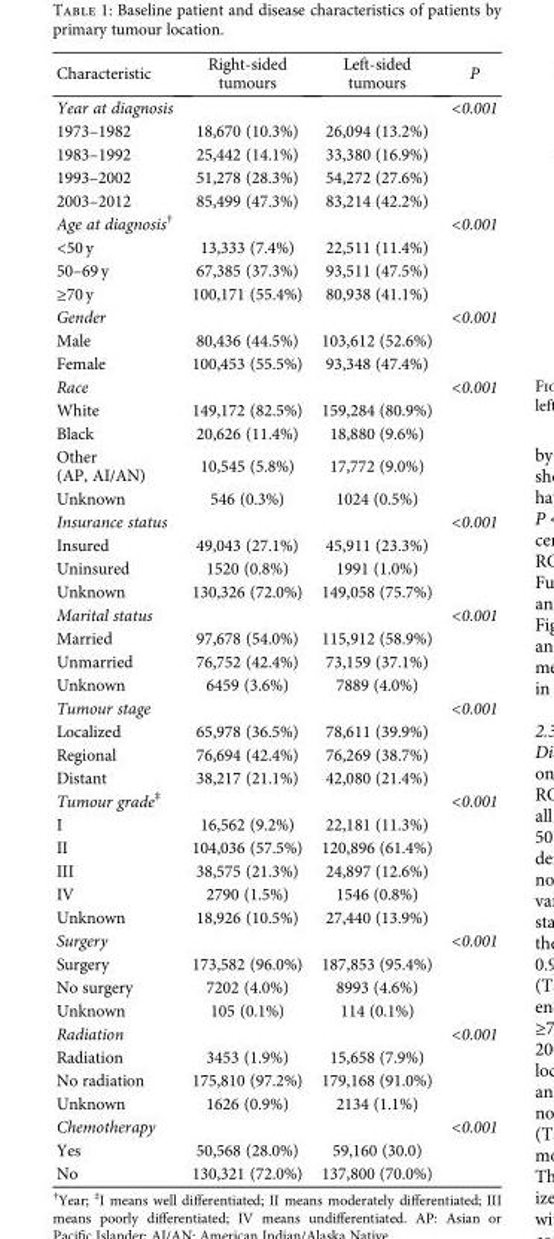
<table><thead><tr><td>Characteristic</td><td>Right-sided tumours</td><td>Left-sided tumours</td><td>P</td></tr></thead><tbody><tr><td>Year at diagnosis</td><td></td><td></td><td>&lt;0.001</td></tr><tr><td>1973–1982</td><td>18,670 (10.3%)</td><td>26,094 (13.2%)</td><td></td></tr><tr><td>1983–1992</td><td>25,442 (14.1%)</td><td>33,380 (16.9%)</td><td></td></tr><tr><td>1993–2002</td><td>51,278 (28.3%)</td><td>54,272 (27.6%)</td><td></td></tr><tr><td>2003–2012</td><td>85,499 (47.3%)</td><td>83,214 (42.2%)</td><td></td></tr><tr><td>Age at diagnosis<sup>†</sup></td><td></td><td></td><td>&lt;0.001</td></tr><tr><td>&lt;50 y</td><td>13,333 (7.4%)</td><td>22,511 (11.4%)</td><td></td></tr><tr><td>50–69 y</td><td>67,385 (37.3%)</td><td>93,511 (47.5%)</td><td></td></tr><tr><td>≥70 y</td><td>100,171 (55.4%)</td><td>80,938 (41.1%)</td><td></td></tr><tr><td>Gender</td><td></td><td></td><td>&lt;0.001</td></tr><tr><td>Male</td><td>80,436 (44.5%)</td><td>103,612 (52.6%)</td><td></td></tr><tr><td>Female</td><td>100,453 (55.5%)</td><td>93,348 (47.4%)</td><td></td></tr><tr><td>Race</td><td></td><td></td><td>&lt;0.001</td></tr><tr><td>White</td><td>149,172 (82.5%)</td><td>159,284 (80.9%)</td><td></td></tr><tr><td>Black</td><td>20,626 (11.4%)</td><td>18,880 (9.6%)</td><td></td></tr><tr><td>Other (AP, AI/AN)</td><td>10,545 (5.8%)</td><td>17,772 (9.0%)</td><td></td></tr><tr><td>Unknown</td><td>546 (0.3%)</td><td>1024 (0.5%)</td><td></td></tr><tr><td>Insurance status</td><td></td><td></td><td>&lt;0.001</td></tr><tr><td>Insured</td><td>49,043 (27.1%)</td><td>45,911 (23.3%)</td><td></td></tr><tr><td>Uninsured</td><td>1520 (0.8%)</td><td>1991 (1.0%)</td><td></td></tr><tr><td>Unknown</td><td>130,326 (72.0%)</td><td>149,058 (75.7%)</td><td></td></tr><tr><td>Marital status</td><td></td><td></td><td>&lt;0.001</td></tr><tr><td>Married</td><td>97,678 (54.0%)</td><td>115,912 (58.9%)</td><td></td></tr><tr><td>Unmarried</td><td>76,752 (42.4%)</td><td>73,159 (37.1%)</td><td></td></tr><tr><td>Unknown</td><td>6459 (3.6%)</td><td>7889 (4.0%)</td><td></td></tr><tr><td>Tumour stage</td><td></td><td></td><td>&lt;0.001</td></tr><tr><td>Localized</td><td>65,978 (36.5%)</td><td>78,611 (39.9%)</td><td></td></tr><tr><td>Regional</td><td>76,694 (42.4%)</td><td>76,269 (38.7%)</td><td></td></tr><tr><td>Distant</td><td>38,217 (21.1%)</td><td>42,080 (21.4%)</td><td></td></tr><tr><td>Tumour grade<sup>‡</sup></td><td></td><td></td><td>&lt;0.001</td></tr><tr><td>I</td><td>16,562 (9.2%)</td><td>22,181 (11.3%)</td><td></td></tr><tr><td>II</td><td>104,036 (57.5%)</td><td>120,896 (61.4%)</td><td></td></tr><tr><td>III</td><td>38,575 (21.3%)</td><td>24,897 (12.6%)</td><td></td></tr><tr><td>IV</td><td>2790 (1.5%)</td><td>1546 (0.8%)</td><td></td></tr><tr><td>Unknown</td><td>18,926 (10.5%)</td><td>27,440 (13.9%)</td><td></td></tr><tr><td>Surgery</td><td></td><td></td><td>&lt;0.001</td></tr><tr><td>Surgery</td><td>173,582 (96.0%)</td><td>187,853 (95.4%)</td><td></td></tr><tr><td>No surgery</td><td>7202 (4.0%)</td><td>8993 (4.6%)</td><td></td></tr><tr><td>Unknown</td><td>105 (0.1%)</td><td>114 (0.1%)</td><td></td></tr><tr><td>Radiation</td><td></td><td></td><td>&lt;0.001</td></tr><tr><td>Radiation</td><td>3453 (1.9%)</td><td>15,658 (7.9%)</td><td></td></tr><tr><td>No radiation</td><td>175,810 (97.2%)</td><td>179,168 (91.0%)</td><td></td></tr><tr><td>Unknown</td><td>1626 (0.9%)</td><td>2134 (1.1%)</td><td></td></tr><tr><td>Chemotherapy</td><td></td><td></td><td>&lt;0.001</td></tr><tr><td>Yes</td><td>50,568 (28.0%)</td><td>59,160 (30.0)</td><td></td></tr><tr><td>No</td><td>130,321 (72.0%)</td><td>137,800 (70.0%)</td><td></td></tr></tbody></table>